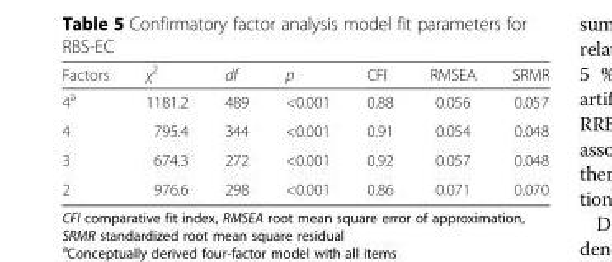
<table><thead><tr><td>Factors</td><td>χ<sup>2</sup></td><td>df</td><td>p</td><td>CFI</td><td>RMSEA</td><td>SRMR</td></tr></thead><tbody><tr><td>4<sup>a</sup></td><td>1181.2</td><td>489</td><td>&lt;0.001</td><td>0.88</td><td>0.056</td><td>0.057</td></tr><tr><td>4</td><td>795.4</td><td>344</td><td>&lt;0.001</td><td>0.91</td><td>0.054</td><td>0.048</td></tr><tr><td>3</td><td>674.3</td><td>272</td><td>&lt;0.001</td><td>0.92</td><td>0.057</td><td>0.048</td></tr><tr><td>2</td><td>976.6</td><td>298</td><td>&lt;0.001</td><td>0.86</td><td>0.071</td><td>0.070</td></tr></tbody></table>